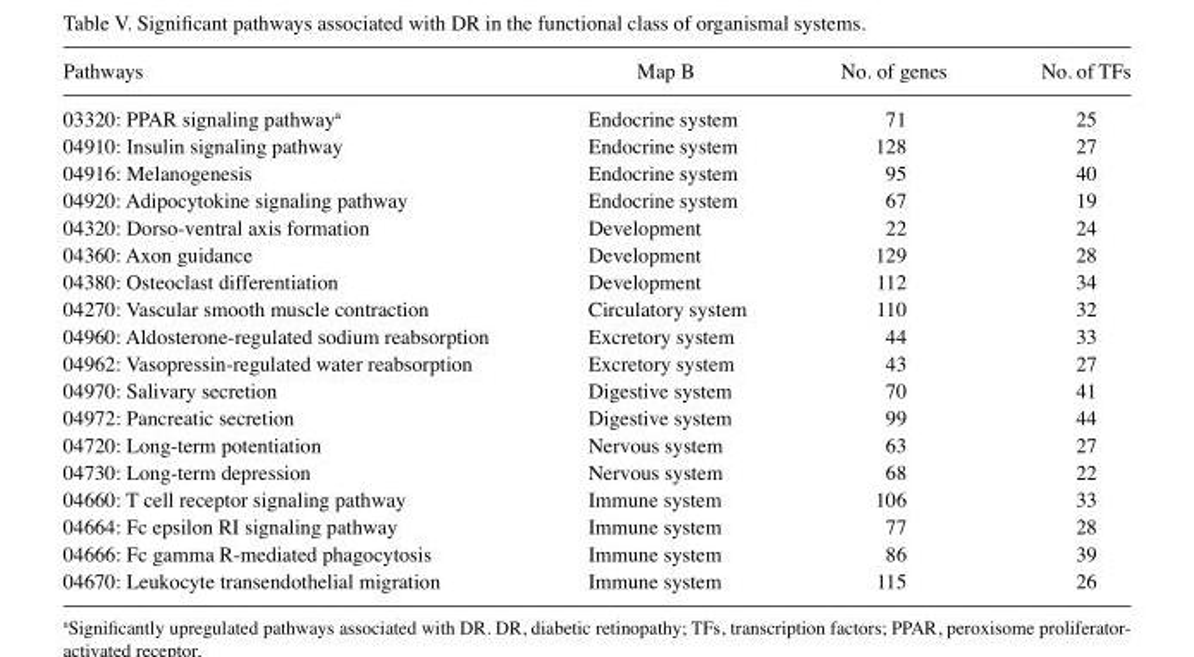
<table><thead><tr><td>Pathways</td><td>Map B</td><td>No. of genes</td><td>No. of TFs</td></tr></thead><tbody><tr><td>03320: PPAR signaling pathway<sup>a</sup></td><td>Endocrine system</td><td>71</td><td>25</td></tr><tr><td>04910: Insulin signaling pathway</td><td>Endocrine system</td><td>128</td><td>27</td></tr><tr><td>04916: Melanogenesis</td><td>Endocrine system</td><td>95</td><td>40</td></tr><tr><td>04920: Adipocytokine signaling pathway</td><td>Endocrine system</td><td>67</td><td>19</td></tr><tr><td>04320: Dorso-ventral axis formation</td><td>Development</td><td>22</td><td>24</td></tr><tr><td>04360: Axon guidance</td><td>Development</td><td>129</td><td>28</td></tr><tr><td>04380: Osteoclast differentiation</td><td>Development</td><td>112</td><td>34</td></tr><tr><td>04270: Vascular smooth muscle contraction</td><td>Circulatory system</td><td>110</td><td>32</td></tr><tr><td>04960: Aldosterone-regulated sodium reabsorption</td><td>Excretory system</td><td>44</td><td>33</td></tr><tr><td>04962: Vasopressin-regulated water reabsorption</td><td>Excretory system</td><td>43</td><td>27</td></tr><tr><td>04970: Salivary secretion</td><td>Digestive system</td><td>70</td><td>41</td></tr><tr><td>04972: Pancreatic secretion</td><td>Digestive system</td><td>99</td><td>44</td></tr><tr><td>04720: Long-term potentiation</td><td>Nervous system</td><td>63</td><td>27</td></tr><tr><td>04730: Long-term depression</td><td>Nervous system</td><td>68</td><td>22</td></tr><tr><td>04660: T cell receptor signaling pathway</td><td>Immune system</td><td>106</td><td>33</td></tr><tr><td>04664: Fc epsilon RI signaling pathway</td><td>Immune system</td><td>77</td><td>28</td></tr><tr><td>04666: Fc gamma R-mediated phagocytosis</td><td>Immune system</td><td>86</td><td>39</td></tr><tr><td>04670: Leukocyte transendothelial migration</td><td>Immune system</td><td>115</td><td>26</td></tr></tbody></table>